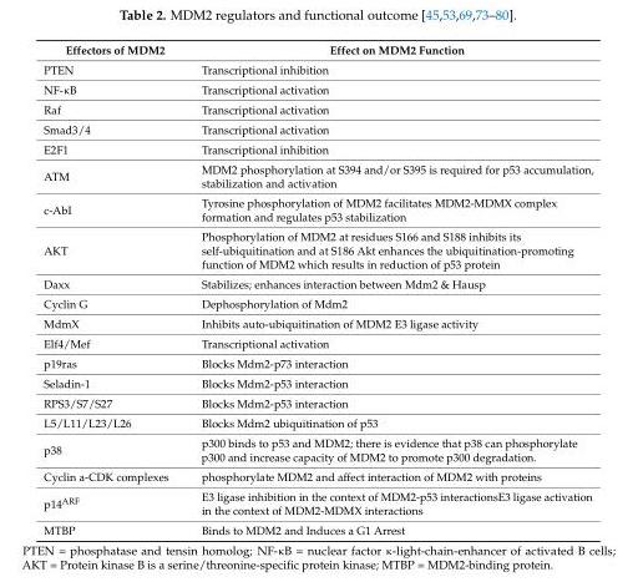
<table><thead><tr><td>Effectors of MDM2</td><td>Effect on MDM2 Function</td></tr></thead><tbody><tr><td>PTEN</td><td>Transcriptional inhibition</td></tr><tr><td>NF-κB</td><td>Transcriptional activation</td></tr><tr><td>Raf</td><td>Transcriptional activation</td></tr><tr><td>Smad3/4</td><td>Transcriptional activation</td></tr><tr><td>E2F1</td><td>Transcriptional inhibition</td></tr><tr><td>ATM</td><td>MDM2 phosphorylation at S394 and/or S395 is required for p53 accumulation, stabilization and activation</td></tr><tr><td>c-AbI</td><td>Tyrosine phosphorylation of MDM2 facilitates MDM2-MDMX complex formation and regulates p53 stabilization</td></tr><tr><td>AKT</td><td>Phosphorylation of MDM2 at residues S166 and S188 inhibits its self-ubiquitination and at S186 Akt enhances the ubiquitination-promoting function of MDM2 which results in reduction of p53 protein</td></tr><tr><td>Daxx</td><td>Stabilizes; enhances interaction between Mdm2 &amp; Hausp</td></tr><tr><td>Cyclin G</td><td>Dephosphorylation of Mdm2</td></tr><tr><td>MdmX</td><td>Inhibits auto-ubiquitination of MDM2 E3 ligase activity</td></tr><tr><td>Elf4/Mef</td><td>Transcriptional activation</td></tr><tr><td>p19ras</td><td>Blocks Mdm2-p73 interaction</td></tr><tr><td>Seladin-1</td><td>Blocks Mdm2-p53 interaction</td></tr><tr><td>RPS3/S7/S27</td><td>Blocks Mdm2-p53 interaction</td></tr><tr><td>L5/L11/L23/L26</td><td>Blocks Mdm2 ubiquitination of p53</td></tr><tr><td>p38</td><td>p300 binds to p53 and MDM2; there is evidence that p38 can phosphorylate p300 and increase capacity of MDM2 to promote p300 degradation.</td></tr><tr><td>Cyclin a-CDK complexes</td><td>phosphorylate MDM2 and affect interaction of MDM2 with proteins</td></tr><tr><td>p14<sup>ARF</sup></td><td>E3 ligase inhibition in the context of MDM2-p53 interactionsE3 ligase activation in the context of MDM2-MDMX interactions</td></tr><tr><td>MTBP</td><td>Binds to MDM2 and Induces a G1 Arrest</td></tr></tbody></table>